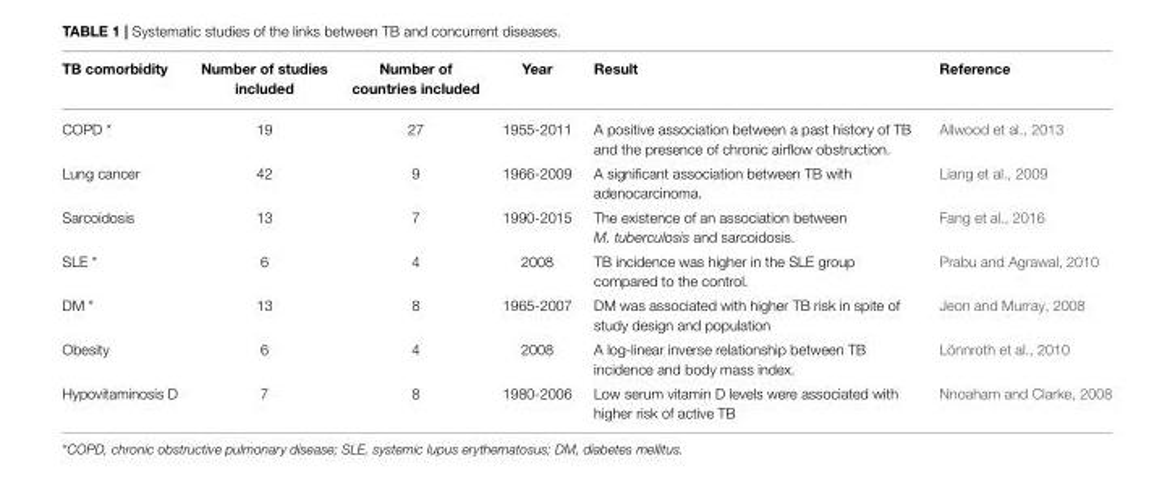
<table><thead><tr><td>TB comorbidity</td><td>Number of studies included</td><td>Number of countries included</td><td>Year</td><td>Result</td><td>Reference</td></tr></thead><tbody><tr><td>COPD *</td><td>19</td><td>27</td><td>1955-2011</td><td>A positive association between a past history of TB and the presence of chronic airflow obstruction.</td><td>Allwood et al., 2013</td></tr><tr><td>Lung cancer</td><td>42</td><td>9</td><td>1966-2009</td><td>A significant association between TB with adenocarcinoma.</td><td>Liang et al., 2009</td></tr><tr><td>Sarcoidosis</td><td>13</td><td>7</td><td>1990-2015</td><td>The existence of an association between M. tuberculosis and sarcoidosis.</td><td>Fang et al., 2016</td></tr><tr><td>SLE *</td><td>6</td><td>4</td><td>2008</td><td>TB incidence was higher in the SLE group compared to the control.</td><td>Prabu and Agrawal, 2010</td></tr><tr><td>DM *</td><td>13</td><td>8</td><td>1965-2007</td><td>DM was associated with higher TB risk in spite of study design and population</td><td>Jeon and Murray, 2008</td></tr><tr><td>Obesity</td><td>6</td><td>4</td><td>2008</td><td>A log-linear inverse relationship between TB incidence and body mass index.</td><td>Lönnroth et al., 2010</td></tr><tr><td>Hypovitaminosis D</td><td>7</td><td>8</td><td>1980-2006</td><td>Low serum vitamin D levels were associated with higher risk of active TB</td><td>Nnoaham and Clarke, 2008</td></tr></tbody></table>